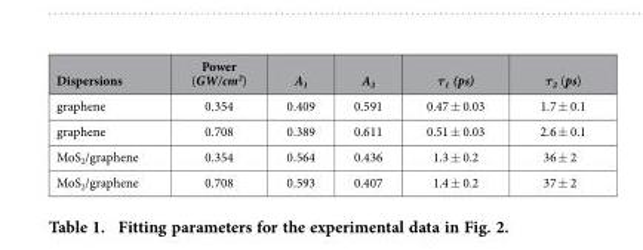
<table><thead><tr><td>Dispersions</td><td>Power (GW/cm<sup>2</sup>)</td><td>A<sub>1</sub></td><td>A<sub>2</sub></td><td>τ<sub>1</sub> (ps)</td><td>τ<sub>2</sub> (ps)</td></tr></thead><tbody><tr><td>graphene</td><td>0.354</td><td>0.409</td><td>0.591</td><td>0.47 ± 0.03</td><td>1.7 ± 0.1</td></tr><tr><td>graphene</td><td>0.708</td><td>0.389</td><td>0.611</td><td>0.51 ± 0.03</td><td>2.6 ± 0.1</td></tr><tr><td>MoS<sub>2</sub>/graphene</td><td>0.354</td><td>0.564</td><td>0.436</td><td>1.3 ± 0.2</td><td>36 ± 2</td></tr><tr><td>MoS<sub>2</sub>/graphene</td><td>0.708</td><td>0.593</td><td>0.407</td><td>1.4 ± 0.2</td><td>37 ± 2</td></tr></tbody></table>